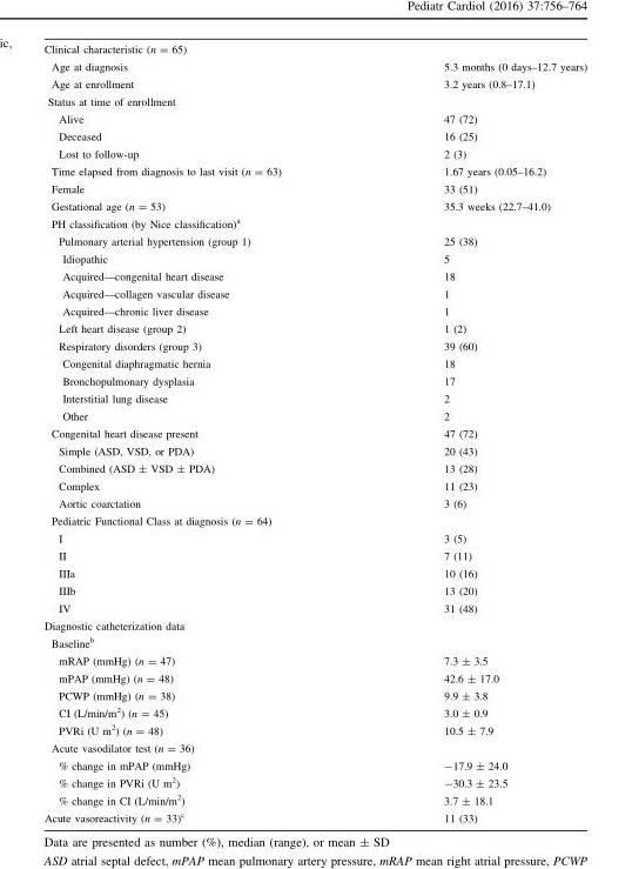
<table><tbody><tr><td colspan="2">Clinical characteristic (n = 65)</td></tr><tr><td>Age at diagnosis</td><td>5.3 months (0 days–12.7 years)</td></tr><tr><td>Age at enrollment</td><td>3.2 years (0.8–17.1)</td></tr><tr><td colspan="2">Status at time of enrollment</td></tr><tr><td>Alive</td><td>47 (72)</td></tr><tr><td>Deceased</td><td>16 (25)</td></tr><tr><td>Lost to follow-up</td><td>2 (3)</td></tr><tr><td>Time elapsed from diagnosis to last visit (n = 63)</td><td>1.67 years (0.05–16.2)</td></tr><tr><td>Female</td><td>33 (51)</td></tr><tr><td>Gestational age (n = 53)</td><td>35.3 weeks (22.7–41.0)</td></tr><tr><td colspan="2">PH classification (by Nice classification)<sup>a</sup></td></tr><tr><td>Pulmonary arterial hypertension (group 1)</td><td>25 (38)</td></tr><tr><td>Idiopathic</td><td>5</td></tr><tr><td>Acquired—congenital heart disease</td><td>18</td></tr><tr><td>Acquired—collagen vascular disease</td><td>1</td></tr><tr><td>Acquired—chronic liver disease</td><td>1</td></tr><tr><td>Left heart disease (group 2)</td><td>1 (2)</td></tr><tr><td>Respiratory disorders (group 3)</td><td>39 (60)</td></tr><tr><td>Congenital diaphragmatic hernia</td><td>18</td></tr><tr><td>Bronchopulmonary dysplasia</td><td>17</td></tr><tr><td>Interstitial lung disease</td><td>2</td></tr><tr><td>Other</td><td>2</td></tr><tr><td>Congenital heart disease present</td><td>47 (72)</td></tr><tr><td>Simple (ASD, VSD, or PDA)</td><td>20 (43)</td></tr><tr><td>Combined (ASD ± VSD ± PDA)</td><td>13 (28)</td></tr><tr><td>Complex</td><td>11 (23)</td></tr><tr><td>Aortic coarctation</td><td>3 (6)</td></tr><tr><td colspan="2">Pediatric Functional Class at diagnosis (n = 64)</td></tr><tr><td>I</td><td>3 (5)</td></tr><tr><td>II</td><td>7 (11)</td></tr><tr><td>IIIa</td><td>10 (16)</td></tr><tr><td>IIIb</td><td>13 (20)</td></tr><tr><td>IV</td><td>31 (48)</td></tr><tr><td colspan="2">Diagnostic catheterization data</td></tr><tr><td colspan="2">Baseline<sup>b</sup></td></tr><tr><td>mRAP (mmHg) (n = 47)</td><td>7.3 ± 3.5</td></tr><tr><td>mPAP (mmHg) (n = 48)</td><td>42.6 ± 17.0</td></tr><tr><td>PCWP (mmHg) (n = 38)</td><td>9.9 ± 3.8</td></tr><tr><td>CI (L/min/m<sup>2</sup>) (n = 45)</td><td>3.0 ± 0.9</td></tr><tr><td>PVRi (U m<sup>2</sup>) (n = 48)</td><td>10.5 ± 7.9</td></tr><tr><td colspan="2">Acute vasodilator test (n = 36)</td></tr><tr><td>% change in mPAP (mmHg)</td><td>-17.9 ± 24.0</td></tr><tr><td>% change in PVRi (U m<sup>2</sup>)</td><td>-30.3 ± 23.5</td></tr><tr><td>% change in CI (L/min/m<sup>2</sup>)</td><td>3.7 ± 18.1</td></tr><tr><td>Acute vasoreactivity (n = 33)<sup>c</sup></td><td>11 (33)</td></tr></tbody></table>